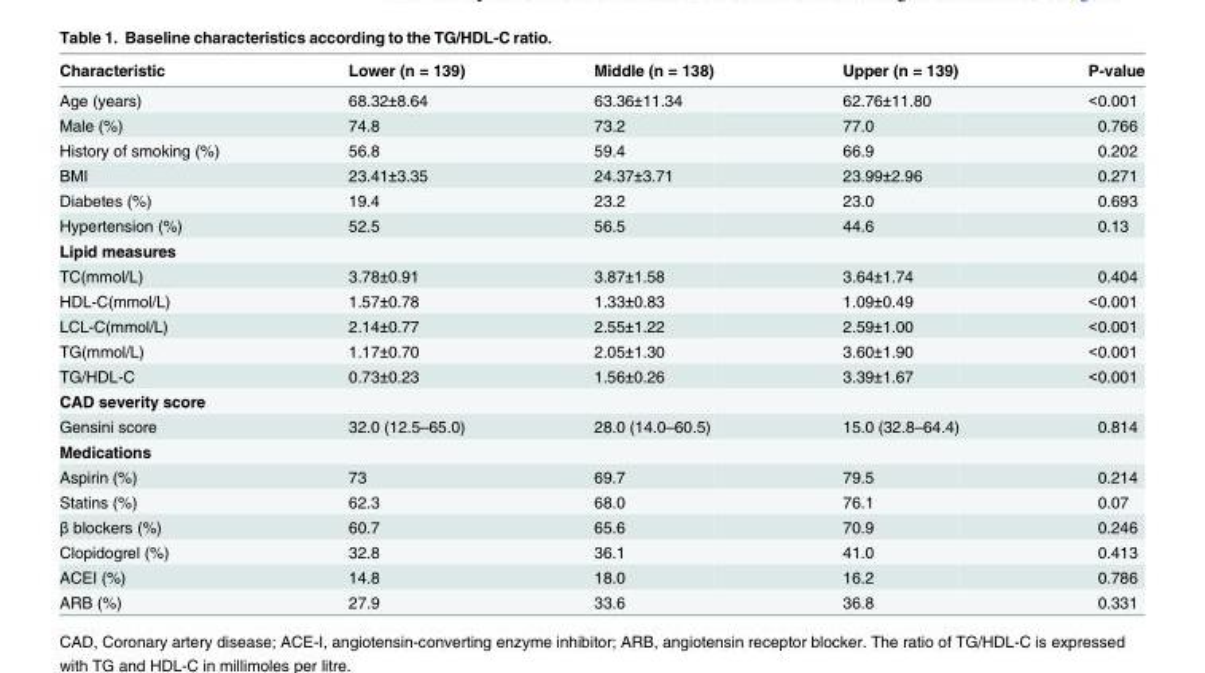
<table><thead><tr><td>Characteristic</td><td>Lower (n = 139)</td><td>Middle (n = 138)</td><td>Upper (n = 139)</td><td>P-value</td></tr></thead><tbody><tr><td>Age (years)</td><td>68.32±8.64</td><td>63.36±11.34</td><td>62.76±11.80</td><td>&lt;0.001</td></tr><tr><td>Male (%)</td><td>74.8</td><td>73.2</td><td>77.0</td><td>0.766</td></tr><tr><td>History of smoking (%)</td><td>56.8</td><td>59.4</td><td>66.9</td><td>0.202</td></tr><tr><td>BMI</td><td>23.41±3.35</td><td>24.37±3.71</td><td>23.99±2.96</td><td>0.271</td></tr><tr><td>Diabetes (%)</td><td>19.4</td><td>23.2</td><td>23.0</td><td>0.693</td></tr><tr><td>Hypertension (%)</td><td>52.5</td><td>56.5</td><td>44.6</td><td>0.13</td></tr><tr><td colspan="5">Lipid measures</td></tr><tr><td>TC(mmol/L)</td><td>3.78±0.91</td><td>3.87±1.58</td><td>3.64±1.74</td><td>0.404</td></tr><tr><td>HDL-C(mmol/L)</td><td>1.57±0.78</td><td>1.33±0.83</td><td>1.09±0.49</td><td>&lt;0.001</td></tr><tr><td>LCL-C(mmol/L)</td><td>2.14±0.77</td><td>2.55±1.22</td><td>2.59±1.00</td><td>&lt;0.001</td></tr><tr><td>TG(mmol/L)</td><td>1.17±0.70</td><td>2.05±1.30</td><td>3.60±1.90</td><td>&lt;0.001</td></tr><tr><td>TG/HDL-C</td><td>0.73±0.23</td><td>1.56±0.26</td><td>3.39±1.67</td><td>&lt;0.001</td></tr><tr><td colspan="5">CAD severity score</td></tr><tr><td>Gensini score</td><td>32.0 (12.5–65.0)</td><td>28.0 (14.0–60.5)</td><td>15.0 (32.8–64.4)</td><td>0.814</td></tr><tr><td colspan="5">Medications</td></tr><tr><td>Aspirin (%)</td><td>73</td><td>69.7</td><td>79.5</td><td>0.214</td></tr><tr><td>Statins (%)</td><td>62.3</td><td>68.0</td><td>76.1</td><td>0.07</td></tr><tr><td>β blockers (%)</td><td>60.7</td><td>65.6</td><td>70.9</td><td>0.246</td></tr><tr><td>Clopidogrel (%)</td><td>32.8</td><td>36.1</td><td>41.0</td><td>0.413</td></tr><tr><td>ACEI (%)</td><td>14.8</td><td>18.0</td><td>16.2</td><td>0.786</td></tr><tr><td>ARB (%)</td><td>27.9</td><td>33.6</td><td>36.8</td><td>0.331</td></tr></tbody></table>